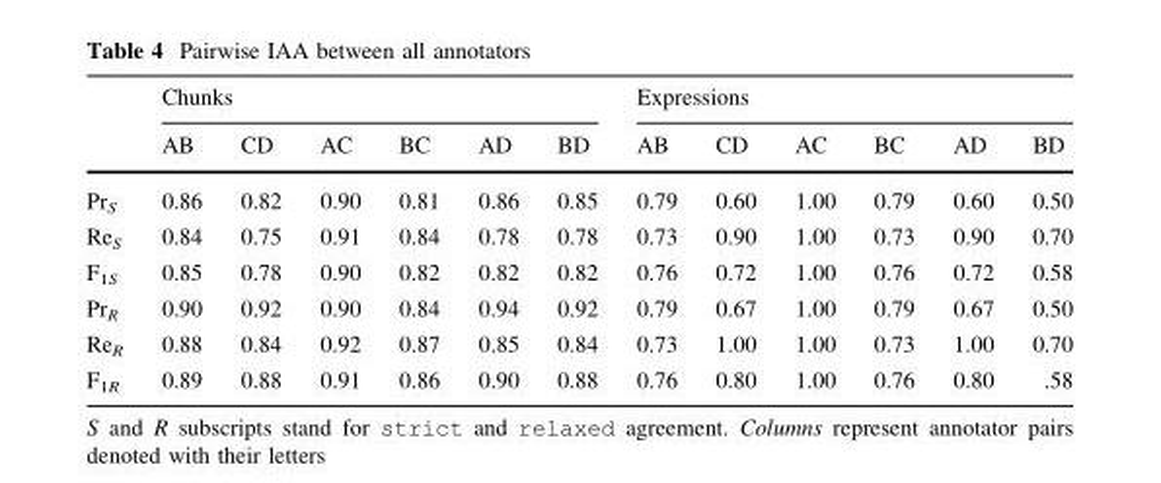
<table><thead><tr><td rowspan="2"></td><td colspan="6">Chunks</td><td colspan="6">Expressions</td></tr><tr><td>AB</td><td>CD</td><td>AC</td><td>BC</td><td>AD</td><td>BD</td><td>AB</td><td>CD</td><td>AC</td><td>BC</td><td>AD</td><td>BD</td></tr></thead><tbody><tr><td>Pr<sub>S</sub></td><td>0.86</td><td>0.82</td><td>0.90</td><td>0.81</td><td>0.86</td><td>0.85</td><td>0.79</td><td>0.60</td><td>1.00</td><td>0.79</td><td>0.60</td><td>0.50</td></tr><tr><td>Re<sub>S</sub></td><td>0.84</td><td>0.75</td><td>0.91</td><td>0.84</td><td>0.78</td><td>0.78</td><td>0.73</td><td>0.90</td><td>1.00</td><td>0.73</td><td>0.90</td><td>0.70</td></tr><tr><td>F<sub>1S</sub></td><td>0.85</td><td>0.78</td><td>0.90</td><td>0.82</td><td>0.82</td><td>0.82</td><td>0.76</td><td>0.72</td><td>1.00</td><td>0.76</td><td>0.72</td><td>0.58</td></tr><tr><td>Pr<sub>R</sub></td><td>0.90</td><td>0.92</td><td>0.90</td><td>0.84</td><td>0.94</td><td>0.92</td><td>0.79</td><td>0.67</td><td>1.00</td><td>0.79</td><td>0.67</td><td>0.50</td></tr><tr><td>Re<sub>R</sub></td><td>0.88</td><td>0.84</td><td>0.92</td><td>0.87</td><td>0.85</td><td>0.84</td><td>0.73</td><td>1.00</td><td>1.00</td><td>0.73</td><td>1.00</td><td>0.70</td></tr><tr><td>F<sub>1R</sub></td><td>0.89</td><td>0.88</td><td>0.91</td><td>0.86</td><td>0.90</td><td>0.88</td><td>0.76</td><td>0.80</td><td>1.00</td><td>0.76</td><td>0.80</td><td>.58</td></tr></tbody></table>